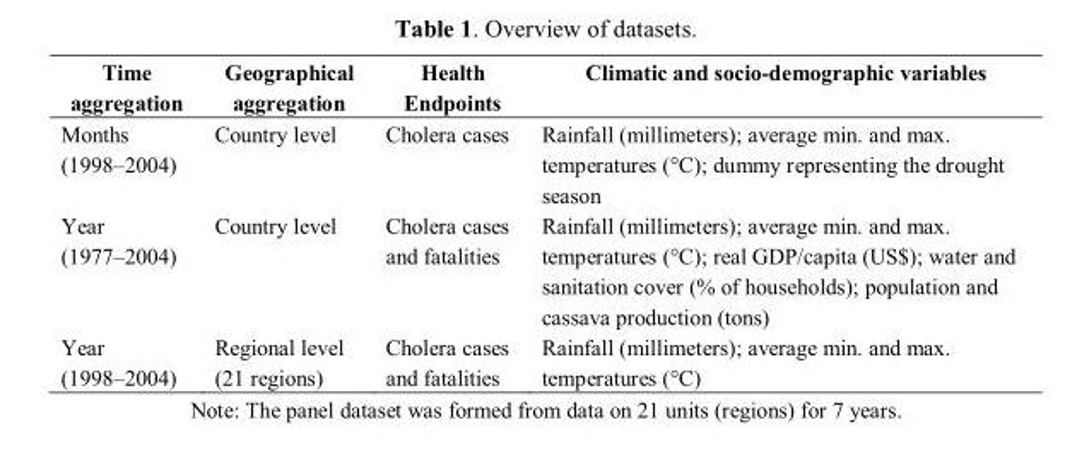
<table><thead><tr><td>Time aggregation</td><td>Geographical aggregation</td><td>Health Endpoints</td><td>Climatic and socio-demographic variables</td></tr></thead><tbody><tr><td>Months (1998–2004)</td><td>Country level</td><td>Cholera cases</td><td>Rainfall (millimeters); average min. and max. temperatures (°C); dummy representing the drought season</td></tr><tr><td>Year (1977–2004)</td><td>Country level</td><td>Cholera cases and fatalities</td><td>Rainfall (millimeters); average min. and max. temperatures (°C); real GDP/capita (US$); water and sanitation cover (% of households); population and cassava production (tons)</td></tr><tr><td>Year (1998–2004)</td><td>Regional level (21 regions)</td><td>Cholera cases and fatalities</td><td>Rainfall (millimeters); average min. and max. temperatures (°C)</td></tr></tbody></table>